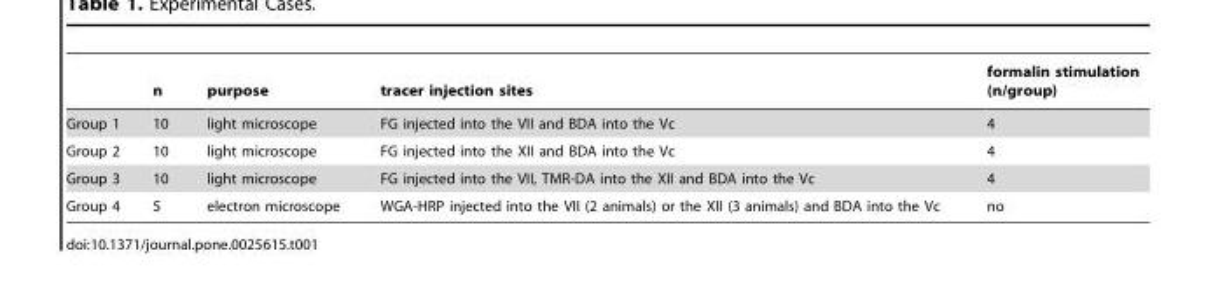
<table><thead><tr><td></td><td>n</td><td>purpose</td><td>tracer injection sites</td><td>formalin stimulation (n/group)</td></tr></thead><tbody><tr><td>Group 1</td><td>10</td><td>light microscope</td><td>FG injected into the VII and BDA into the Vc</td><td>4</td></tr><tr><td>Group 2</td><td>10</td><td>light microscope</td><td>FG injected into the XII and BDA into the Vc</td><td>4</td></tr><tr><td>Group 3</td><td>10</td><td>light microscope</td><td>FG injected into the VII, TMR-DA into the XII and BDA into the Vc</td><td>4</td></tr><tr><td>Group 4</td><td>5</td><td>electron microscope</td><td>WGA-HRP injected into the VII (2 animals) or the XII (3 animals) and BDA into the Vc</td><td>no</td></tr></tbody></table>